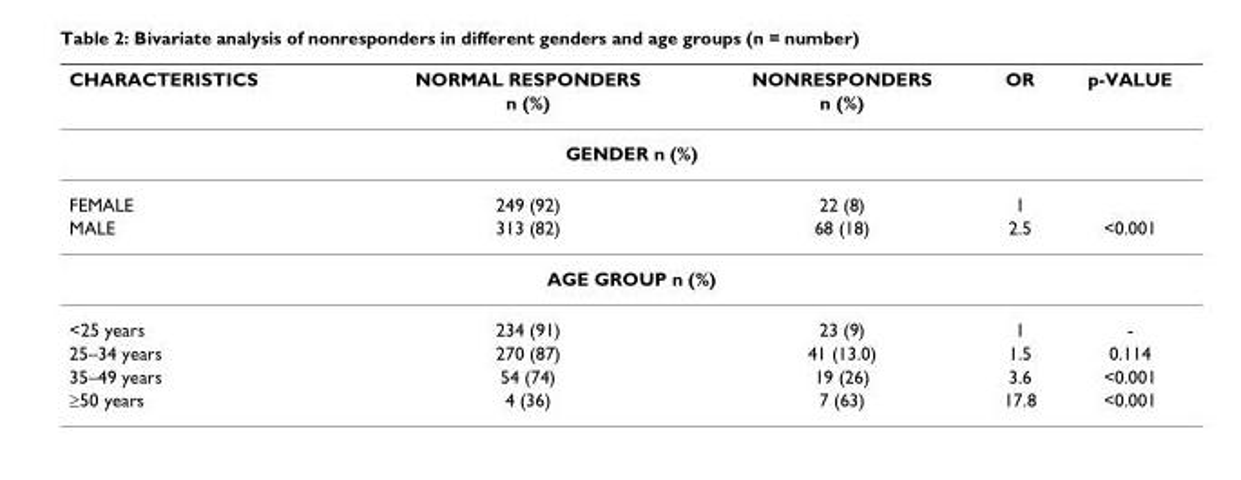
<table><thead><tr><td rowspan="2">CHARACTERISTICS</td><td rowspan="2">NORMAL RESPONDERS n (%)</td><td rowspan="2">NONRESPONDERS n (%)</td><td rowspan="2">OR</td><td rowspan="2">p-VALUE</td></tr><tr></tr></thead><tbody><tr><td colspan="5">GENDER n (%)</td></tr><tr><td>FEMALE</td><td>249 (92)</td><td>22 (8)</td><td>1</td><td></td></tr><tr><td>MALE</td><td>313 (82)</td><td>68 (18)</td><td>2.5</td><td>&lt;0.001</td></tr><tr><td colspan="5">AGE GROUP n (%)</td></tr><tr><td>&lt;25 years</td><td>234 (91)</td><td>23 (9)</td><td>1</td><td>-</td></tr><tr><td>25–34 years</td><td>270 (87)</td><td>41 (13.0)</td><td>1.5</td><td>0.114</td></tr><tr><td>35–49 years</td><td>54 (74)</td><td>19 (26)</td><td>3.6</td><td>&lt;0.001</td></tr><tr><td>≥50 years</td><td>4 (36)</td><td>7 (63)</td><td>17.8</td><td>&lt;0.001</td></tr></tbody></table>